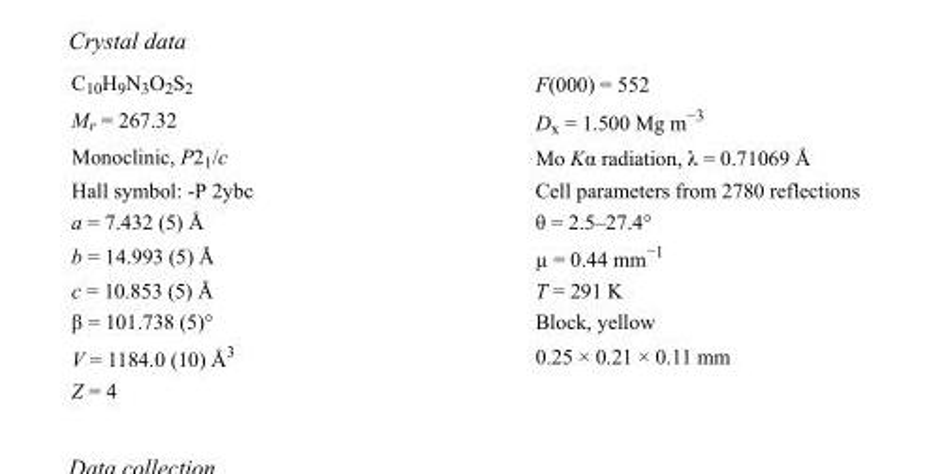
<table><tbody><tr><td>C<sub>10</sub>H<sub>9</sub>N<sub>3</sub>O<sub>2</sub>S<sub>2</sub></td><td>F(000) = 552</td></tr><tr><td>M<sub>r</sub> = 267.32</td><td>D<sub>x</sub> = 1.500 Mg m<sup>−3</sup></td></tr><tr><td>Monoclinic, P2<sub>1</sub>/c</td><td>Mo Kα radiation, λ = 0.71069 Å</td></tr><tr><td>Hall symbol: -P 2ybc</td><td>Cell parameters from 2780 reflections</td></tr><tr><td>a = 7.432 (5) Å</td><td>θ = 2.5–27.4°</td></tr><tr><td>b = 14.993 (5) Å</td><td>µ = 0.44 mm<sup>−1</sup></td></tr><tr><td>c = 10.853 (5) Å</td><td>T = 291 K</td></tr><tr><td>β = 101.738 (5)°</td><td>Block, yellow</td></tr><tr><td>V = 1184.0 (10) Å<sup>3</sup></td><td>0.25 × 0.21 × 0.11 mm</td></tr><tr><td>Z = 4</td><td></td></tr></tbody></table>